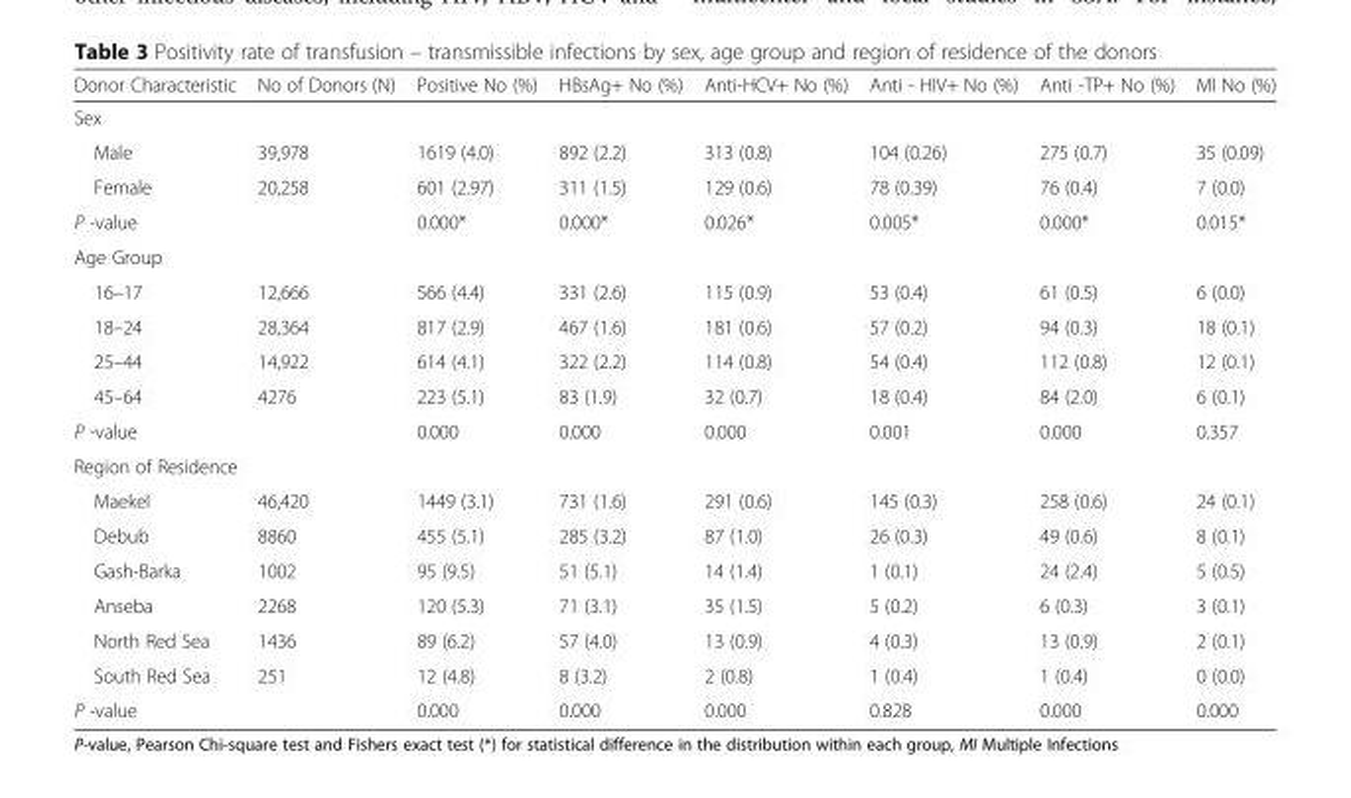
<table><thead><tr><td>Donor Characteristic</td><td>No of Donors (N)</td><td>Positive No (%)</td><td>HBsAg+ No (%)</td><td>Anti-HCV+ No (%)</td><td>Anti - HIV+ No (%)</td><td>Anti -TP+ No (%)</td><td>MI No (%)</td></tr></thead><tbody><tr><td colspan="8">Sex</td></tr><tr><td>Male</td><td>39,978</td><td>1619 (4.0)</td><td>892 (2.2)</td><td>313 (0.8)</td><td>104 (0.26)</td><td>275 (0.7)</td><td>35 (0.09)</td></tr><tr><td>Female</td><td>20,258</td><td>601 (2.97)</td><td>311 (1.5)</td><td>129 (0.6)</td><td>78 (0.39)</td><td>76 (0.4)</td><td>7 (0.0)</td></tr><tr><td>P -value</td><td></td><td>0.000*</td><td>0.000*</td><td>0.026*</td><td>0.005*</td><td>0.000*</td><td>0.015*</td></tr><tr><td colspan="8">Age Group</td></tr><tr><td>16–17</td><td>12,666</td><td>566 (4.4)</td><td>331 (2.6)</td><td>115 (0.9)</td><td>53 (0.4)</td><td>61 (0.5)</td><td>6 (0.0)</td></tr><tr><td>18–24</td><td>28,364</td><td>817 (2.9)</td><td>467 (1.6)</td><td>181 (0.6)</td><td>57 (0.2)</td><td>94 (0.3)</td><td>18 (0.1)</td></tr><tr><td>25–44</td><td>14,922</td><td>614 (4.1)</td><td>322 (2.2)</td><td>114 (0.8)</td><td>54 (0.4)</td><td>112 (0.8)</td><td>12 (0.1)</td></tr><tr><td>45–64</td><td>4276</td><td>223 (5.1)</td><td>83 (1.9)</td><td>32 (0.7)</td><td>18 (0.4)</td><td>84 (2.0)</td><td>6 (0.1)</td></tr><tr><td>P -value</td><td></td><td>0.000</td><td>0.000</td><td>0.000</td><td>0.001</td><td>0.000</td><td>0.357</td></tr><tr><td colspan="8">Region of Residence</td></tr><tr><td>Maekel</td><td>46,420</td><td>1449 (3.1)</td><td>731 (1.6)</td><td>291 (0.6)</td><td>145 (0.3)</td><td>258 (0.6)</td><td>24 (0.1)</td></tr><tr><td>Debub</td><td>8860</td><td>455 (5.1)</td><td>285 (3.2)</td><td>87 (1.0)</td><td>26 (0.3)</td><td>49 (0.6)</td><td>8 (0.1)</td></tr><tr><td>Gash-Barka</td><td>1002</td><td>95 (9.5)</td><td>51 (5.1)</td><td>14 (1.4)</td><td>1 (0.1)</td><td>24 (2.4)</td><td>5 (0.5)</td></tr><tr><td>Anseba</td><td>2268</td><td>120 (5.3)</td><td>71 (3.1)</td><td>35 (1.5)</td><td>5 (0.2)</td><td>6 (0.3)</td><td>3 (0.1)</td></tr><tr><td>North Red Sea</td><td>1436</td><td>89 (6.2)</td><td>57 (4.0)</td><td>13 (0.9)</td><td>4 (0.3)</td><td>13 (0.9)</td><td>2 (0.1)</td></tr><tr><td>South Red Sea</td><td>251</td><td>12 (4.8)</td><td>8 (3.2)</td><td>2 (0.8)</td><td>1 (0.4)</td><td>1 (0.4)</td><td>0 (0.0)</td></tr><tr><td>P -value</td><td></td><td>0.000</td><td>0.000</td><td>0.000</td><td>0.828</td><td>0.000</td><td>0.000</td></tr></tbody></table>